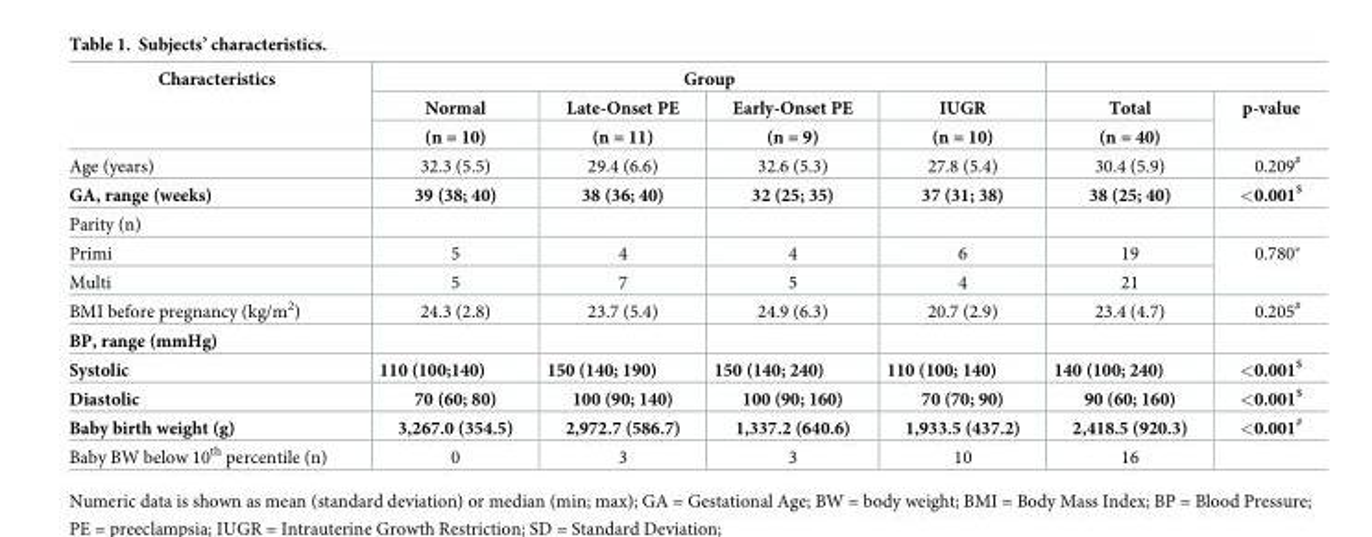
<table><thead><tr><td rowspan="3">Characteristics</td><td colspan="4">Group</td><td rowspan="3">Total (n = 40)</td><td rowspan="3">p-value</td></tr><tr><td rowspan="2">Normal (n = 10)</td><td rowspan="2">Late-Onset PE (n = 11)</td><td rowspan="2">Early-Onset PE (n = 9)</td><td rowspan="2">IUGR (n = 10)</td></tr><tr></tr></thead><tbody><tr><td>Age (years)</td><td>32.3 (5.5)</td><td>29.4 (6.6)</td><td>32.6 (5.3)</td><td>27.8 (5.4)</td><td>30.4 (5.9)</td><td>0.209<sup>#</sup></td></tr><tr><td>GA, range (weeks)</td><td>39 (38; 40)</td><td>38 (36; 40)</td><td>32 (25; 35)</td><td>37 (31; 38)</td><td>38 (25; 40)</td><td>&lt;0.001<sup>$</sup></td></tr><tr><td colspan="7">Parity (n)</td></tr><tr><td>Primi</td><td>5</td><td>4</td><td>4</td><td>6</td><td>19</td><td rowspan="2">0.780*</td></tr><tr><td>Multi</td><td>5</td><td>7</td><td>5</td><td>4</td><td>21</td></tr><tr><td>BMI before pregnancy (kg/m<sup>2</sup>)</td><td>24.3 (2.8)</td><td>23.7 (5.4)</td><td>24.9 (6.3)</td><td>20.7 (2.9)</td><td>23.4 (4.7)</td><td>0.205<sup>#</sup></td></tr><tr><td colspan="7">BP, range (mmHg)</td></tr><tr><td>Systolic</td><td>110 (100;140)</td><td>150 (140; 190)</td><td>150 (140; 240)</td><td>110 (100; 140)</td><td>140 (100; 240)</td><td>&lt;0.001<sup>$</sup></td></tr><tr><td>Diastolic</td><td>70 (60; 80)</td><td>100 (90; 140)</td><td>100 (90; 160)</td><td>70 (70; 90)</td><td>90 (60; 160)</td><td>&lt;0.001<sup>$</sup></td></tr><tr><td>Baby birth weight (g)</td><td>3,267.0 (354.5)</td><td>2,972.7 (586.7)</td><td>1,337.2 (640.6)</td><td>1,933.5 (437.2)</td><td>2,418.5 (920.3)</td><td>&lt;0.001<sup>#</sup></td></tr><tr><td>Baby BW below 10<sup>th</sup> percentile (n)</td><td>0</td><td>3</td><td>3</td><td>10</td><td>16</td><td></td></tr></tbody></table>